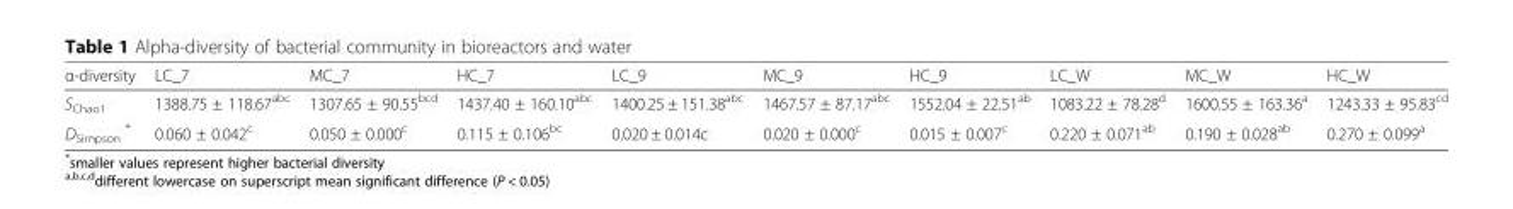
<table><thead><tr><td>α-diversity</td><td>LC_7</td><td>MC_7</td><td>HC_7</td><td>LC_9</td><td>MC_9</td><td>HC_9</td><td>LC_W</td><td>MC_W</td><td>HC_W</td></tr></thead><tbody><tr><td>S<sub>Chao1</sub></td><td>1388.75 ± 118.67<sup>abc</sup></td><td>1307.65 ± 90.55<sup>bcd</sup></td><td>1437.40 ± 160.10<sup>abc</sup></td><td>1400.25 ± 151.38<sup>abc</sup></td><td>1467.57 ± 87.17<sup>abc</sup></td><td>1552.04 ± 22.51<sup>ab</sup></td><td>1083.22 ± 78.28<sup>d</sup></td><td>1600.55 ± 163.36<sup>a</sup></td><td>1243.33 ± 95.83<sup>cd</sup></td></tr><tr><td>D<sub>Simpson</sub> *</td><td>0.060 ± 0.042<sup>c</sup></td><td>0.050 ± 0.000<sup>c</sup></td><td>0.115 ± 0.106<sup>bc</sup></td><td>0.020 ± 0.014c</td><td>0.020 ± 0.000<sup>c</sup></td><td>0.015 ± 0.007<sup>c</sup></td><td>0.220 ± 0.071<sup>ab</sup></td><td>0.190 ± 0.028<sup>ab</sup></td><td>0.270 ± 0.099<sup>a</sup></td></tr></tbody></table>